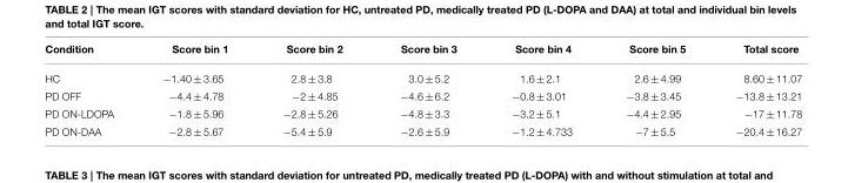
<table><thead><tr><td>Condition</td><td>Score bin 1</td><td>Score bin 2</td><td>Score bin 3</td><td>Score bin 4</td><td>Score bin 5</td><td>Total score</td></tr></thead><tbody><tr><td>HC</td><td>−1.40 ± 3.65</td><td>2.8 ± 3.8</td><td>3.0 ± 5.2</td><td>1.6 ± 2.1</td><td>2.6 ± 4.99</td><td>8.60 ± 11.07</td></tr><tr><td>PD OFF</td><td>−4.4 ± 4.78</td><td>−2 ± 4.85</td><td>−4.6 ± 6.2</td><td>−0.8 ± 3.01</td><td>−3.8 ± 3.45</td><td>−13.8 ± 13.21</td></tr><tr><td>PD ON-LDOPA</td><td>−1.8 ± 5.96</td><td>−2.8 ± 5.26</td><td>−4.8 ± 3.3</td><td>−3.2 ± 5.1</td><td>−4.4 ± 2.95</td><td>−17 ± 11.78</td></tr><tr><td>PD ON-DAA</td><td>−2.8 ± 5.67</td><td>−5.4 ± 5.9</td><td>−2.6 ± 5.9</td><td>−1.2 ± 4.733</td><td>−7 ± 5.5</td><td>−20.4 ± 16.27</td></tr></tbody></table>